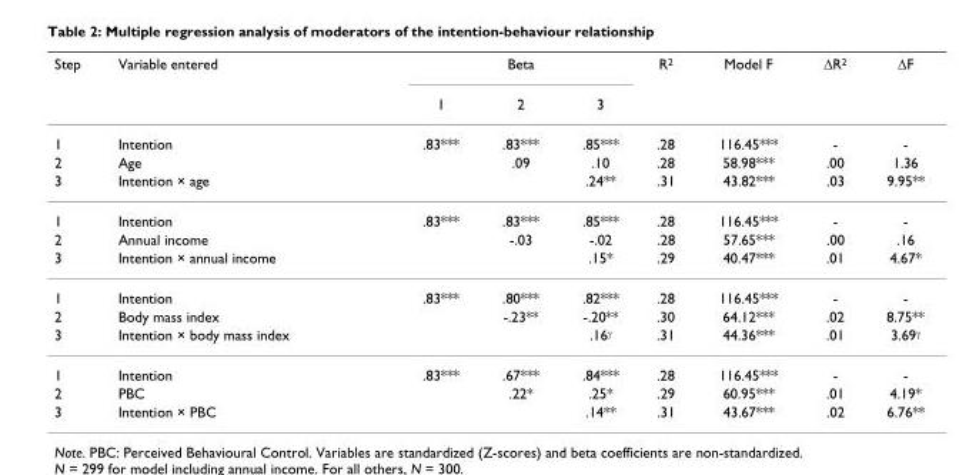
<table><thead><tr><td rowspan="2">Step</td><td rowspan="2">Variable entered</td><td colspan="3">Beta</td><td rowspan="2">R<sup>2</sup></td><td rowspan="2">Model F</td><td rowspan="2">∆R2</td><td rowspan="2">∆F</td></tr><tr><td>1</td><td>2</td><td>3</td></tr></thead><tbody><tr><td>1</td><td>Intention</td><td>.83***</td><td>.83***</td><td>.85***</td><td>.28</td><td>116.45***</td><td>-</td><td>-</td></tr><tr><td>2</td><td>Age</td><td></td><td>.09</td><td>.10</td><td>.28</td><td>58.98***</td><td>.00</td><td>1.36</td></tr><tr><td>3</td><td>Intention × age</td><td></td><td></td><td>.24**</td><td>.31</td><td>43.82***</td><td>.03</td><td>9.95**</td></tr><tr><td>1</td><td>Intention</td><td>.83***</td><td>.83***</td><td>.85***</td><td>.28</td><td>116.45***</td><td>-</td><td>-</td></tr><tr><td>2</td><td>Annual income</td><td></td><td>-.03</td><td>-.02</td><td>.28</td><td>57.65***</td><td>.00</td><td>.16</td></tr><tr><td>3</td><td>Intention × annual income</td><td></td><td></td><td>.15*</td><td>.29</td><td>40.47***</td><td>.01</td><td>4.67*</td></tr><tr><td>1</td><td>Intention</td><td>.83***</td><td>.80***</td><td>.82***</td><td>.28</td><td>116.45***</td><td>-</td><td>-</td></tr><tr><td>2</td><td>Body mass index</td><td></td><td>-.23**</td><td>-.20**</td><td>.30</td><td>64.12***</td><td>.02</td><td>8.75**</td></tr><tr><td>3</td><td>Intention × body mass index</td><td></td><td></td><td>.16<sup>γ</sup></td><td>.31</td><td>44.36***</td><td>.01</td><td>3.69<sup>γ</sup></td></tr><tr><td>1</td><td>Intention</td><td>.83***</td><td>.67***</td><td>.84***</td><td>.28</td><td>116.45***</td><td>-</td><td>-</td></tr><tr><td>2</td><td>PBC</td><td></td><td>.22*</td><td>.25*</td><td>.29</td><td>60.95***</td><td>.01</td><td>4.19*</td></tr><tr><td>3</td><td>Intention × PBC</td><td></td><td></td><td>.14**</td><td>.31</td><td>43.67***</td><td>.02</td><td>6.76**</td></tr></tbody></table>